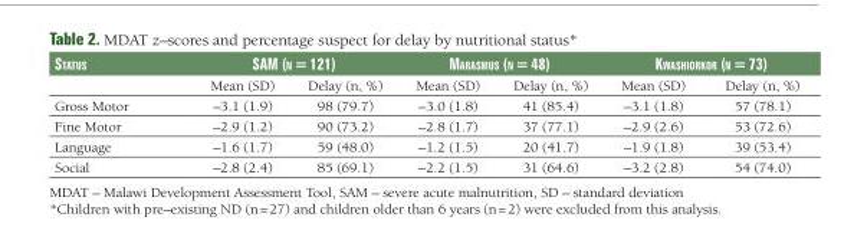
<table><thead><tr><td rowspan="2">status</td><td colspan="2">saM (n = 121)</td><td colspan="2">MarasMus (n = 48)</td><td colspan="2">KwashiorKor (n = 73)</td></tr><tr><td>Mean (SD)</td><td>Delay (n, %)</td><td>Mean (SD)</td><td>Delay (n, %)</td><td>Mean (SD)</td><td>Delay (n, %)</td></tr></thead><tbody><tr><td>Gross Motor</td><td>–3.1 (1.9)</td><td>98 (79.7)</td><td>–3.0 (1.8)</td><td>41 (85.4)</td><td>–3.1 (1.8)</td><td>57 (78.1)</td></tr><tr><td>Fine Motor</td><td>–2.9 (1.2)</td><td>90 (73.2)</td><td>–2.8 (1.7)</td><td>37 (77.1)</td><td>–2.9 (2.6)</td><td>53 (72.6)</td></tr><tr><td>Language</td><td>–1.6 (1.7)</td><td>59 (48.0)</td><td>–1.2 (1.5)</td><td>20 (41.7)</td><td>–1.9 (1.8)</td><td>39 (53.4)</td></tr><tr><td>Social</td><td>–2.8 (2.4)</td><td>85 (69.1)</td><td>–2.2 (1.5)</td><td>31 (64.6)</td><td>–3.2 (2.8)</td><td>54 (74.0)</td></tr></tbody></table>